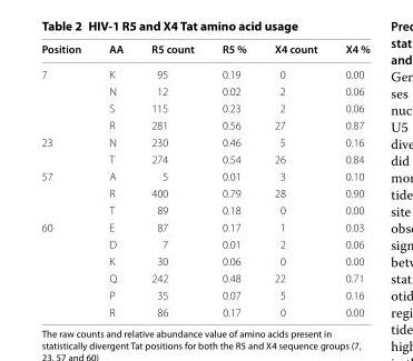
<table><thead><tr><td>Position</td><td>AA</td><td>R5 count</td><td>R5 %</td><td>X4 count</td><td>X4 %</td></tr></thead><tbody><tr><td rowspan="4">7</td><td>K</td><td>95</td><td>0.19</td><td>0</td><td>0.00</td></tr><tr><td>N</td><td>12</td><td>0.02</td><td>2</td><td>0.06</td></tr><tr><td>S</td><td>115</td><td>0.23</td><td>2</td><td>0.06</td></tr><tr><td>R</td><td>281</td><td>0.56</td><td>27</td><td>0.87</td></tr><tr><td rowspan="2">23</td><td>N</td><td>230</td><td>0.46</td><td>5</td><td>0.16</td></tr><tr><td>T</td><td>274</td><td>0.54</td><td>26</td><td>0.84</td></tr><tr><td rowspan="3">57</td><td>A</td><td>5</td><td>0.01</td><td>3</td><td>0.10</td></tr><tr><td>R</td><td>400</td><td>0.79</td><td>28</td><td>0.90</td></tr><tr><td>T</td><td>89</td><td>0.18</td><td>0</td><td>0.00</td></tr><tr><td rowspan="6">60</td><td>E</td><td>87</td><td>0.17</td><td>1</td><td>0.03</td></tr><tr><td>D</td><td>7</td><td>0.01</td><td>2</td><td>0.06</td></tr><tr><td>K</td><td>30</td><td>0.06</td><td>0</td><td>0.00</td></tr><tr><td>Q</td><td>242</td><td>0.48</td><td>22</td><td>0.71</td></tr><tr><td>P</td><td>35</td><td>0.07</td><td>5</td><td>0.16</td></tr><tr><td>R</td><td>86</td><td>0.17</td><td>0</td><td>0.00</td></tr></tbody></table>